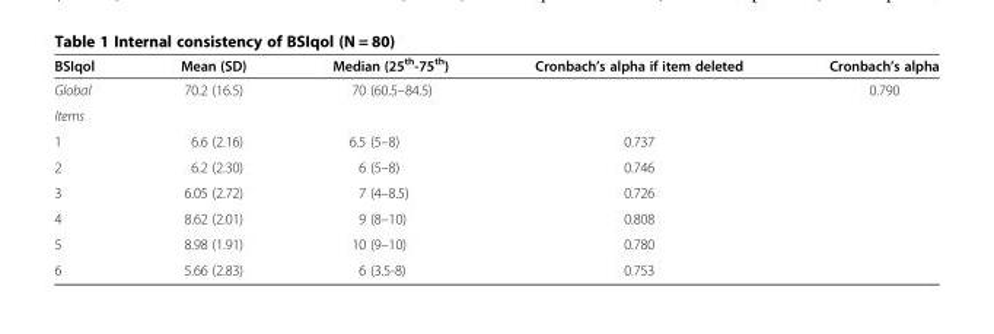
<table><thead><tr><td>BSIqol</td><td>Mean (SD)</td><td>Median (25<sup>th</sup>-75<sup>th</sup>)</td><td>Cronbach’s alpha if item deleted</td><td>Cronbach’s alpha</td></tr></thead><tbody><tr><td>Global</td><td>70.2 (16.5)</td><td>70 (60.5–84.5)</td><td></td><td>0.790</td></tr><tr><td colspan="5">Items</td></tr><tr><td>1</td><td>6.6 (2.16)</td><td>6.5 (5–8)</td><td>0.737</td><td></td></tr><tr><td>2</td><td>6.2 (2.30)</td><td>6 (5–8)</td><td>0.746</td><td></td></tr><tr><td>3</td><td>6.05 (2.72)</td><td>7 (4–8.5)</td><td>0.726</td><td></td></tr><tr><td>4</td><td>8.62 (2.01)</td><td>9 (8–10)</td><td>0.808</td><td></td></tr><tr><td>5</td><td>8.98 (1.91)</td><td>10 (9–10)</td><td>0.780</td><td></td></tr><tr><td>6</td><td>5.66 (2.83)</td><td>6 (3.5-8)</td><td>0.753</td><td></td></tr></tbody></table>